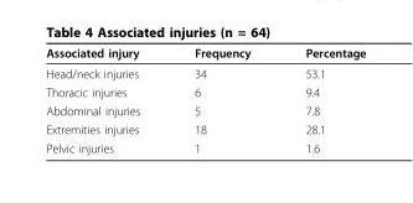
<table><thead><tr><td>Associated injury</td><td>Frequency</td><td>Percentage</td></tr></thead><tbody><tr><td>Head/neck injuries</td><td>34</td><td>53.1</td></tr><tr><td>Thoracic injuries</td><td>6</td><td>9.4</td></tr><tr><td>Abdominal injuries</td><td>5</td><td>7.8</td></tr><tr><td>Extremities injuries</td><td>18</td><td>28.1</td></tr><tr><td>Pelvic injuries</td><td>1</td><td>1.6</td></tr></tbody></table>